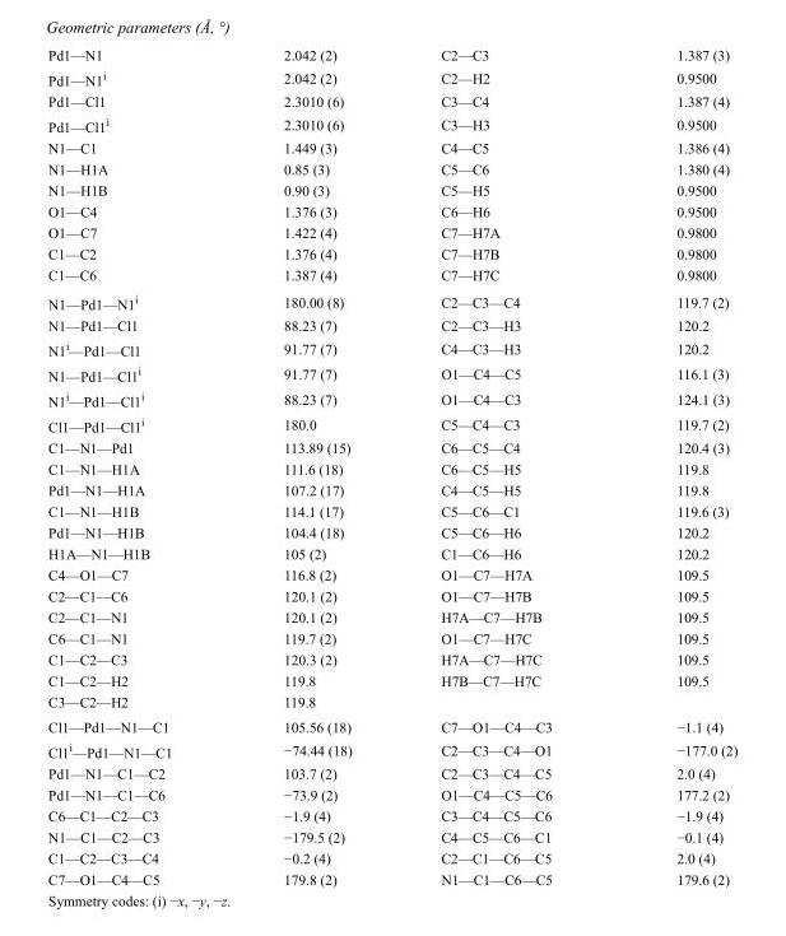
<table><tbody><tr><td>Pd1—N1</td><td>2.042 (2)</td><td>C2—C3</td><td>1.387 (3)</td></tr><tr><td>Pd1—N1<sup>i</sup></td><td>2.042 (2)</td><td>C2—H2</td><td>0.9500</td></tr><tr><td>Pd1—Cl1</td><td>2.3010 (6)</td><td>C3—C4</td><td>1.387 (4)</td></tr><tr><td>Pd1—Cl1<sup>i</sup></td><td>2.3010 (6)</td><td>C3—H3</td><td>0.9500</td></tr><tr><td>N1—C1</td><td>1.449 (3)</td><td>C4—C5</td><td>1.386 (4)</td></tr><tr><td>N1—H1A</td><td>0.85 (3)</td><td>C5—C6</td><td>1.380 (4)</td></tr><tr><td>N1—H1B</td><td>0.90 (3)</td><td>C5—H5</td><td>0.9500</td></tr><tr><td>O1—C4</td><td>1.376 (3)</td><td>C6—H6</td><td>0.9500</td></tr><tr><td>O1—C7</td><td>1.422 (4)</td><td>C7—H7A</td><td>0.9800</td></tr><tr><td>C1—C2</td><td>1.376 (4)</td><td>C7—H7B</td><td>0.9800</td></tr><tr><td>C1—C6</td><td>1.387 (4)</td><td>C7—H7C</td><td>0.9800</td></tr><tr><td>N1—Pd1—N1<sup>i</sup></td><td>180.00 (8)</td><td>C2—C3—C4</td><td>119.7 (2)</td></tr><tr><td>N1—Pd1—Cl1</td><td>88.23 (7)</td><td>C2—C3—H3</td><td>120.2</td></tr><tr><td>N1<sup>i</sup>—Pd1—Cl1</td><td>91.77 (7)</td><td>C4—C3—H3</td><td>120.2</td></tr><tr><td>N1—Pd1—Cl1<sup>i</sup></td><td>91.77 (7)</td><td>O1—C4—C5</td><td>116.1 (3)</td></tr><tr><td>N1<sup>i</sup>—Pd1—Cl1<sup>i</sup></td><td>88.23 (7)</td><td>O1—C4—C3</td><td>124.1 (3)</td></tr><tr><td>Cl1—Pd1—Cl1<sup>i</sup></td><td>180.0</td><td>C5—C4—C3</td><td>119.7 (2)</td></tr><tr><td>C1—N1—Pd1</td><td>113.89 (15)</td><td>C6—C5—C4</td><td>120.4 (3)</td></tr><tr><td>C1—N1—H1A</td><td>111.6 (18)</td><td>C6—C5—H5</td><td>119.8</td></tr><tr><td>Pd1—N1—H1A</td><td>107.2 (17)</td><td>C4—C5—H5</td><td>119.8</td></tr><tr><td>C1—N1—H1B</td><td>114.1 (17)</td><td>C5—C6—C1</td><td>119.6 (3)</td></tr><tr><td>Pd1—N1—H1B</td><td>104.4 (18)</td><td>C5—C6—H6</td><td>120.2</td></tr><tr><td>H1A—N1—H1B</td><td>105 (2)</td><td>C1—C6—H6</td><td>120.2</td></tr><tr><td>C4—O1—C7</td><td>116.8 (2)</td><td>O1—C7—H7A</td><td>109.5</td></tr><tr><td>C2—C1—C6</td><td>120.1 (2)</td><td>O1—C7—H7B</td><td>109.5</td></tr><tr><td>C2—C1—N1</td><td>120.1 (2)</td><td>H7A—C7—H7B</td><td>109.5</td></tr><tr><td>C6—C1—N1</td><td>119.7 (2)</td><td>O1—C7—H7C</td><td>109.5</td></tr><tr><td>C1—C2—C3</td><td>120.3 (2)</td><td>H7A—C7—H7C</td><td>109.5</td></tr><tr><td>C1—C2—H2</td><td>119.8</td><td>H7B—C7—H7C</td><td>109.5</td></tr><tr><td>C3—C2—H2</td><td>119.8</td><td></td><td></td></tr><tr><td>Cl1—Pd1—N1—C1</td><td>105.56 (18)</td><td>C7—O1—C4—C3</td><td>−1.1 (4)</td></tr><tr><td>Cl1<sup>i</sup>—Pd1—N1—C1</td><td>−74.44 (18)</td><td>C2—C3—C4—O1</td><td>−177.0 (2)</td></tr><tr><td>Pd1—N1—C1—C2</td><td>103.7 (2)</td><td>C2—C3—C4—C5</td><td>2.0 (4)</td></tr><tr><td>Pd1—N1—C1—C6</td><td>−73.9 (2)</td><td>O1—C4—C5—C6</td><td>177.2 (2)</td></tr><tr><td>C6—C1—C2—C3</td><td>−1.9 (4)</td><td>C3—C4—C5—C6</td><td>−1.9 (4)</td></tr><tr><td>N1—C1—C2—C3</td><td>−179.5 (2)</td><td>C4—C5—C6—C1</td><td>−0.1 (4)</td></tr><tr><td>C1—C2—C3—C4</td><td>−0.2 (4)</td><td>C2—C1—C6—C5</td><td>2.0 (4)</td></tr><tr><td>C7—O1—C4—C5</td><td>179.8 (2)</td><td>N1—C1—C6—C5</td><td>179.6 (2)</td></tr></tbody></table>